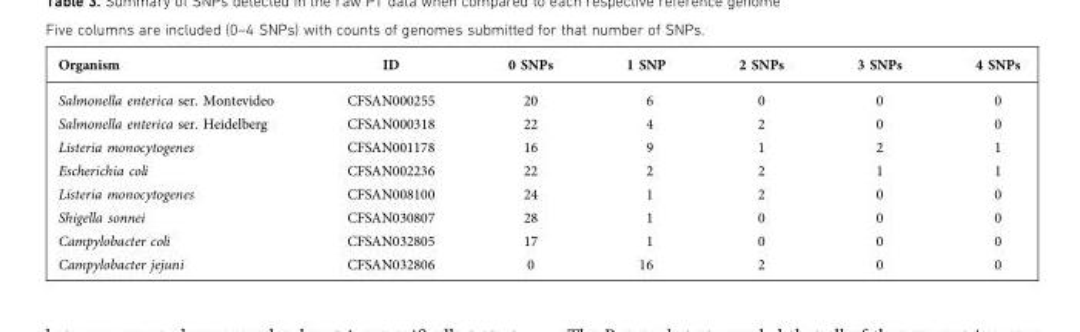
<table><thead><tr><td>Organism</td><td>ID</td><td>0 SNPs</td><td>1 SNP</td><td>2 SNPs</td><td>3 SNPs</td><td>4 SNPs</td></tr></thead><tbody><tr><td>Salmonella enterica ser. Montevideo</td><td>CFSAN000255</td><td>20</td><td>6</td><td>0</td><td>0</td><td>0</td></tr><tr><td>Salmonella enterica ser. Heidelberg</td><td>CFSAN000318</td><td>22</td><td>4</td><td>2</td><td>0</td><td>0</td></tr><tr><td>Listeria monocytogenes</td><td>CFSAN001178</td><td>16</td><td>9</td><td>1</td><td>2</td><td>1</td></tr><tr><td>Escherichia coli</td><td>CFSAN002236</td><td>22</td><td>2</td><td>2</td><td>1</td><td>1</td></tr><tr><td>Listeria monocytogenes</td><td>CFSAN008100</td><td>24</td><td>1</td><td>2</td><td>0</td><td>0</td></tr><tr><td>Shigella sonnei</td><td>CFSAN030807</td><td>28</td><td>1</td><td>0</td><td>0</td><td>0</td></tr><tr><td>Campylobacter coli</td><td>CFSAN032805</td><td>17</td><td>1</td><td>0</td><td>0</td><td>0</td></tr><tr><td>Campylobacter jejuni</td><td>CFSAN032806</td><td>0</td><td>16</td><td>2</td><td>0</td><td>0</td></tr></tbody></table>